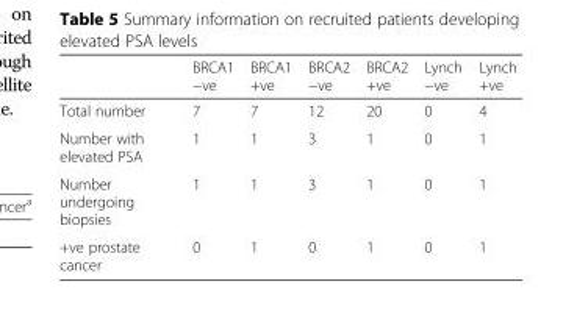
<table><thead><tr><td></td><td>BRCA1 −ve</td><td>BRCA1 +ve</td><td>BRCA2 −ve</td><td>BRCA2 +ve</td><td>Lynch −ve</td><td>Lynch +ve</td></tr></thead><tbody><tr><td>Total number</td><td>7</td><td>7</td><td>12</td><td>20</td><td>0</td><td>4</td></tr><tr><td>Number with elevated PSA</td><td>1</td><td>1</td><td>3</td><td>1</td><td>0</td><td>1</td></tr><tr><td>Number undergoing biopsies</td><td>1</td><td>1</td><td>3</td><td>1</td><td>0</td><td>1</td></tr><tr><td>+ve prostate cancer</td><td>0</td><td>1</td><td>0</td><td>1</td><td>0</td><td>1</td></tr></tbody></table>